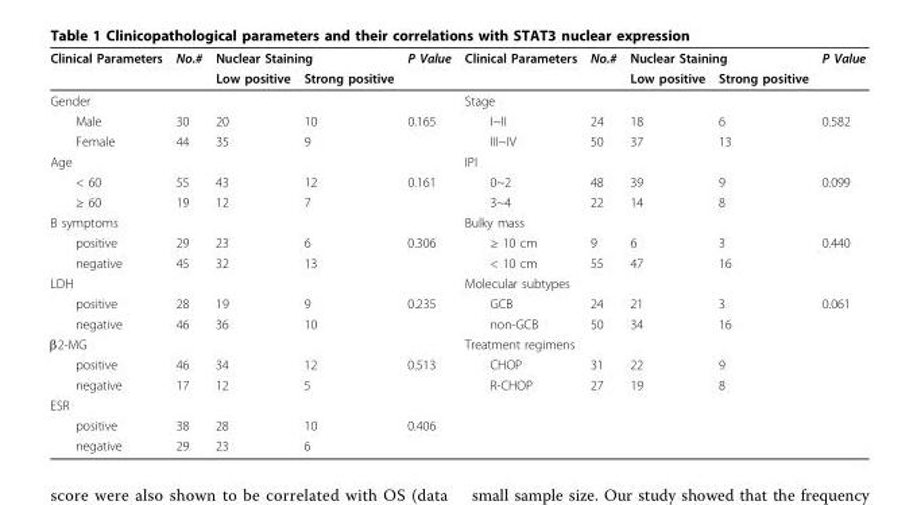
<table><thead><tr><td rowspan="2">Clinical Parameters</td><td rowspan="2">No.#</td><td colspan="2">Nuclear Staining</td><td rowspan="2">P Value</td><td rowspan="2">Clinical Parameters</td><td rowspan="2">No.#</td><td colspan="2">Nuclear Staining</td><td rowspan="2">P Value</td></tr><tr><td>Low positive</td><td>Strong positive</td><td>Low positive</td><td>Strong positive</td></tr></thead><tbody><tr><td>Gender</td><td></td><td></td><td></td><td></td><td>Stage</td><td></td><td></td><td></td><td></td></tr><tr><td>Male</td><td>30</td><td>20</td><td>10</td><td>0.165</td><td>I~II</td><td>24</td><td>18</td><td>6</td><td>0.582</td></tr><tr><td>Female</td><td>44</td><td>35</td><td>9</td><td></td><td>III~IV</td><td>50</td><td>37</td><td>13</td><td></td></tr><tr><td>Age</td><td></td><td></td><td></td><td></td><td>IPI</td><td></td><td></td><td></td><td></td></tr><tr><td>&lt; 60</td><td>55</td><td>43</td><td>12</td><td>0.161</td><td>0~2</td><td>48</td><td>39</td><td>9</td><td>0.099</td></tr><tr><td>≥ 60</td><td>19</td><td>12</td><td>7</td><td></td><td>3~4</td><td>22</td><td>14</td><td>8</td><td></td></tr><tr><td>B symptoms</td><td></td><td></td><td></td><td></td><td>Bulky mass</td><td></td><td></td><td></td><td></td></tr><tr><td>positive</td><td>29</td><td>23</td><td>6</td><td>0.306</td><td>≥ 10 cm</td><td>9</td><td>6</td><td>3</td><td>0.440</td></tr><tr><td>negative</td><td>45</td><td>32</td><td>13</td><td></td><td>&lt; 10 cm</td><td>55</td><td>47</td><td>16</td><td></td></tr><tr><td>LDH</td><td></td><td></td><td></td><td></td><td>Molecular subtypes</td><td></td><td></td><td></td><td></td></tr><tr><td>positive</td><td>28</td><td>19</td><td>9</td><td>0.235</td><td>GCB</td><td>24</td><td>21</td><td>3</td><td>0.061</td></tr><tr><td>negative</td><td>46</td><td>36</td><td>10</td><td></td><td>non-GCB</td><td>50</td><td>34</td><td>16</td><td></td></tr><tr><td>β2-MG</td><td></td><td></td><td></td><td></td><td>Treatment regimens</td><td></td><td></td><td></td><td></td></tr><tr><td>positive</td><td>46</td><td>34</td><td>12</td><td>0.513</td><td>CHOP</td><td>31</td><td>22</td><td>9</td><td></td></tr><tr><td>negative</td><td>17</td><td>12</td><td>5</td><td></td><td>R-CHOP</td><td>27</td><td>19</td><td>8</td><td></td></tr><tr><td colspan="10">ESR</td></tr><tr><td>positive</td><td>38</td><td>28</td><td>10</td><td>0.406</td><td></td><td></td><td></td><td></td><td></td></tr><tr><td>negative</td><td>29</td><td>23</td><td>6</td><td></td><td></td><td></td><td></td><td></td><td></td></tr></tbody></table>